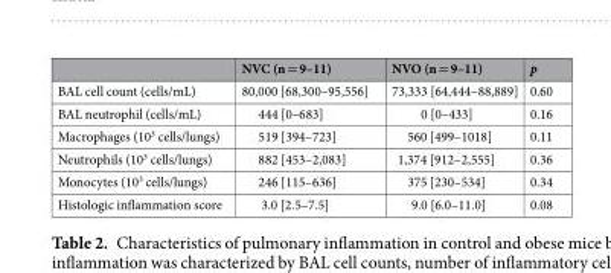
<table><thead><tr><td></td><td>NVC (n = 9–11)</td><td>NVO (n = 9–11)</td><td>p</td></tr></thead><tbody><tr><td>BAL cell count (cells/mL)</td><td>80,000 [68,300–95,556]</td><td>73,333 [64,444–88,889]</td><td>0.60</td></tr><tr><td>BAL neutrophil (cells/mL)</td><td>444 [0–683]</td><td>0 [0–433]</td><td>0.16</td></tr><tr><td>Macrophages (10<sup>3</sup> cells/lungs)</td><td>519 [394–723]</td><td>560 [499–1018]</td><td>0.11</td></tr><tr><td>Neutrophils (10<sup>3</sup> cells/lungs)</td><td>882 [453–2,083]</td><td>1,374 [912–2,555]</td><td>0.36</td></tr><tr><td>Monocytes (10<sup>3</sup> cells/lungs)</td><td>246 [115–636]</td><td>375 [230–534]</td><td>0.34</td></tr><tr><td>Histologic inflammation score</td><td>3.0 [2.5–7.5]</td><td>9.0 [6.0–11.0]</td><td>0.08</td></tr></tbody></table>